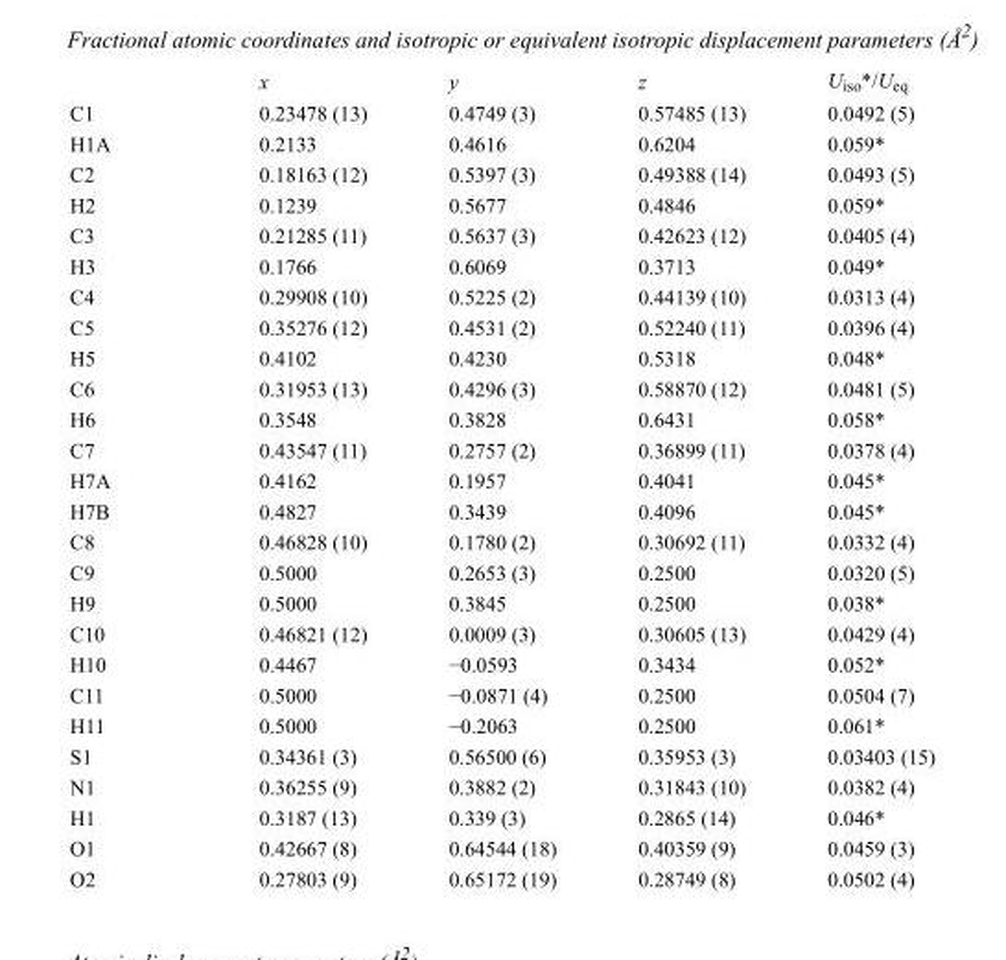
<table><thead><tr><td></td><td>x</td><td>y</td><td>z</td><td>U<sub>iso</sub>*/U<sub>eq</sub></td></tr></thead><tbody><tr><td>C1</td><td>0.23478 (13)</td><td>0.4749 (3)</td><td>0.57485 (13)</td><td>0.0492 (5)</td></tr><tr><td>H1A</td><td>0.2133</td><td>0.4616</td><td>0.6204</td><td>0.059*</td></tr><tr><td>C2</td><td>0.18163 (12)</td><td>0.5397 (3)</td><td>0.49388 (14)</td><td>0.0493 (5)</td></tr><tr><td>H2</td><td>0.1239</td><td>0.5677</td><td>0.4846</td><td>0.059*</td></tr><tr><td>C3</td><td>0.21285 (11)</td><td>0.5637 (3)</td><td>0.42623 (12)</td><td>0.0405 (4)</td></tr><tr><td>H3</td><td>0.1766</td><td>0.6069</td><td>0.3713</td><td>0.049*</td></tr><tr><td>C4</td><td>0.29908 (10)</td><td>0.5225 (2)</td><td>0.44139 (10)</td><td>0.0313 (4)</td></tr><tr><td>C5</td><td>0.35276 (12)</td><td>0.4531 (2)</td><td>0.52240 (11)</td><td>0.0396 (4)</td></tr><tr><td>H5</td><td>0.4102</td><td>0.4230</td><td>0.5318</td><td>0.048*</td></tr><tr><td>C6</td><td>0.31953 (13)</td><td>0.4296 (3)</td><td>0.58870 (12)</td><td>0.0481 (5)</td></tr><tr><td>H6</td><td>0.3548</td><td>0.3828</td><td>0.6431</td><td>0.058*</td></tr><tr><td>C7</td><td>0.43547 (11)</td><td>0.2757 (2)</td><td>0.36899 (11)</td><td>0.0378 (4)</td></tr><tr><td>H7A</td><td>0.4162</td><td>0.1957</td><td>0.4041</td><td>0.045*</td></tr><tr><td>H7B</td><td>0.4827</td><td>0.3439</td><td>0.4096</td><td>0.045*</td></tr><tr><td>C8</td><td>0.46828 (10)</td><td>0.1780 (2)</td><td>0.30692 (11)</td><td>0.0332 (4)</td></tr><tr><td>C9</td><td>0.5000</td><td>0.2653 (3)</td><td>0.2500</td><td>0.0320 (5)</td></tr><tr><td>H9</td><td>0.5000</td><td>0.3845</td><td>0.2500</td><td>0.038*</td></tr><tr><td>C10</td><td>0.46821 (12)</td><td>0.0009 (3)</td><td>0.30605 (13)</td><td>0.0429 (4)</td></tr><tr><td>H10</td><td>0.4467</td><td>−0.0593</td><td>0.3434</td><td>0.052*</td></tr><tr><td>C11</td><td>0.5000</td><td>−0.0871 (4)</td><td>0.2500</td><td>0.0504 (7)</td></tr><tr><td>H11</td><td>0.5000</td><td>−0.2063</td><td>0.2500</td><td>0.061*</td></tr><tr><td>S1</td><td>0.34361 (3)</td><td>0.56500 (6)</td><td>0.35953 (3)</td><td>0.03403 (15)</td></tr><tr><td>N1</td><td>0.36255 (9)</td><td>0.3882 (2)</td><td>0.31843 (10)</td><td>0.0382 (4)</td></tr><tr><td>H1</td><td>0.3187 (13)</td><td>0.339 (3)</td><td>0.2865 (14)</td><td>0.046*</td></tr><tr><td>O1</td><td>0.42667 (8)</td><td>0.64544 (18)</td><td>0.40359 (9)</td><td>0.0459 (3)</td></tr><tr><td>O2</td><td>0.27803 (9)</td><td>0.65172 (19)</td><td>0.28749 (8)</td><td>0.0502 (4)</td></tr></tbody></table>